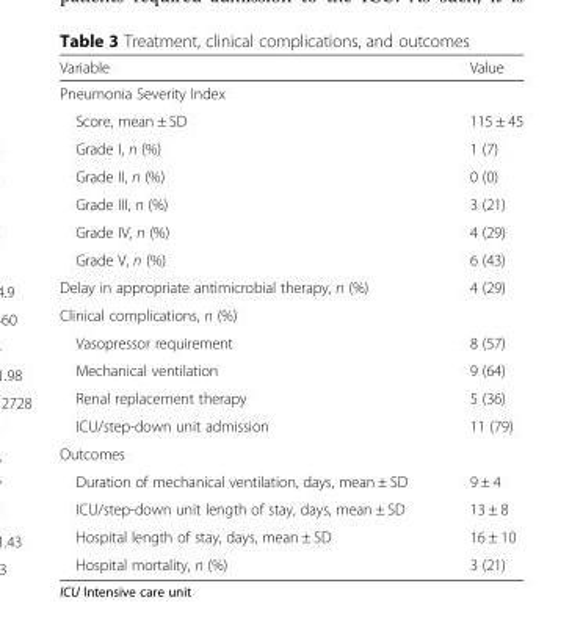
<table><thead><tr><td>Variable</td><td>Value</td></tr></thead><tbody><tr><td colspan="2">Pneumonia Severity Index</td></tr><tr><td>Score, mean ± SD</td><td>115 ± 45</td></tr><tr><td>Grade I, n (%)</td><td>1 (7)</td></tr><tr><td>Grade II, n (%)</td><td>0 (0)</td></tr><tr><td>Grade III, n (%)</td><td>3 (21)</td></tr><tr><td>Grade IV, n (%)</td><td>4 (29)</td></tr><tr><td>Grade V, n (%)</td><td>6 (43)</td></tr><tr><td>Delay in appropriate antimicrobial therapy, n (%)</td><td>4 (29)</td></tr><tr><td colspan="2">Clinical complications, n (%)</td></tr><tr><td>Vasopressor requirement</td><td>8 (57)</td></tr><tr><td>Mechanical ventilation</td><td>9 (64)</td></tr><tr><td>Renal replacement therapy</td><td>5 (36)</td></tr><tr><td>ICU/step-down unit admission</td><td>11 (79)</td></tr><tr><td colspan="2">Outcomes</td></tr><tr><td>Duration of mechanical ventilation, days, mean ± SD</td><td>9 ± 4</td></tr><tr><td>ICU/step-down unit length of stay, days, mean ± SD</td><td>13 ± 8</td></tr><tr><td>Hospital length of stay, days, mean ± SD</td><td>16 ± 10</td></tr><tr><td>Hospital mortality, n (%)</td><td>3 (21)</td></tr></tbody></table>